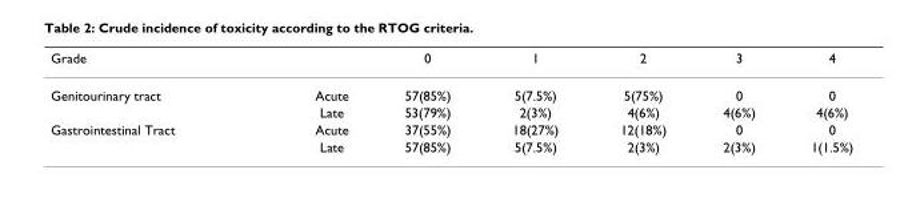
<table><thead><tr><td>Grade</td><td></td><td>0</td><td>1</td><td>2</td><td>3</td><td>4</td></tr></thead><tbody><tr><td rowspan="2">Genitourinary tract</td><td>Acute</td><td>57(85%)</td><td>5(7.5%)</td><td>5(75%)</td><td>0</td><td>0</td></tr><tr><td>Late</td><td>53(79%)</td><td>2(3%)</td><td>4(6%)</td><td>4(6%)</td><td>4(6%)</td></tr><tr><td rowspan="2">Gastrointestinal Tract</td><td>Acute</td><td>37(55%)</td><td>18(27%)</td><td>12(18%)</td><td>0</td><td>0</td></tr><tr><td>Late</td><td>57(85%)</td><td>5(7.5%)</td><td>2(3%)</td><td>2(3%)</td><td>1(1.5%)</td></tr></tbody></table>